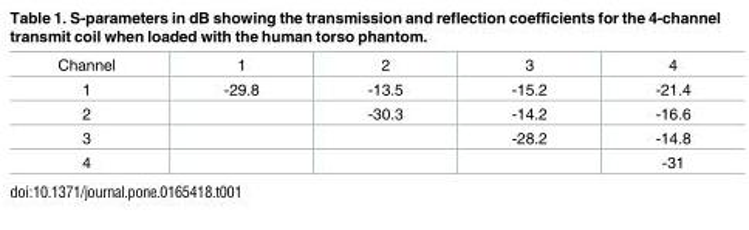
<table><tbody><tr><td>Channel</td><td>1</td><td>2</td><td>3</td><td>4</td></tr><tr><td>1</td><td>-29.8</td><td>-13.5</td><td>-15.2</td><td>-21.4</td></tr><tr><td>2</td><td></td><td>-30.3</td><td>-14.2</td><td>-16.6</td></tr><tr><td>3</td><td></td><td></td><td>-28.2</td><td>-14.8</td></tr><tr><td>4</td><td></td><td></td><td></td><td>-31</td></tr></tbody></table>